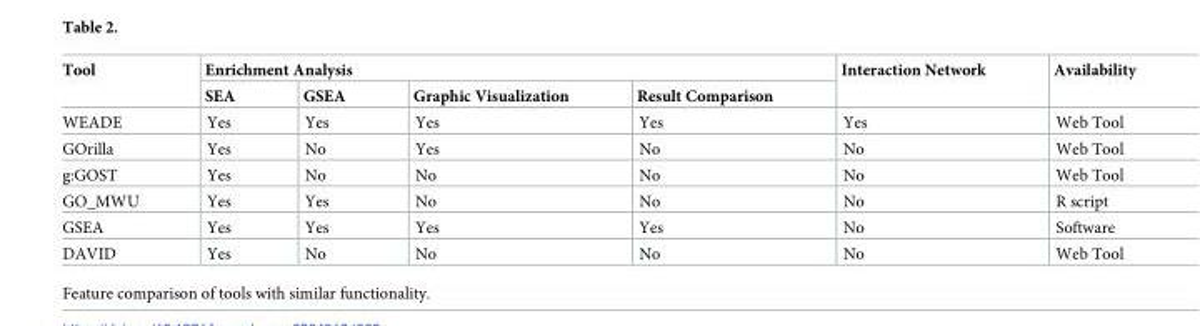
<table><thead><tr><td rowspan="2">Tool</td><td colspan="4">Enrichment Analysis</td><td rowspan="2">Interaction Network</td><td rowspan="2">Availability</td></tr><tr><td>SEA</td><td>GSEA</td><td>Graphic Visualization</td><td>Result Comparison</td></tr></thead><tbody><tr><td>WEADE</td><td>Yes</td><td>Yes</td><td>Yes</td><td>Yes</td><td>Yes</td><td>Web Tool</td></tr><tr><td>GOrilla</td><td>Yes</td><td>No</td><td>Yes</td><td>No</td><td>No</td><td>Web Tool</td></tr><tr><td>g:GOST</td><td>Yes</td><td>No</td><td>No</td><td>No</td><td>No</td><td>Web Tool</td></tr><tr><td>GO_MWU</td><td>Yes</td><td>Yes</td><td>No</td><td>No</td><td>No</td><td>R script</td></tr><tr><td>GSEA</td><td>Yes</td><td>Yes</td><td>Yes</td><td>Yes</td><td>No</td><td>Software</td></tr><tr><td>DAVID</td><td>Yes</td><td>No</td><td>No</td><td>No</td><td>No</td><td>Web Tool</td></tr></tbody></table>